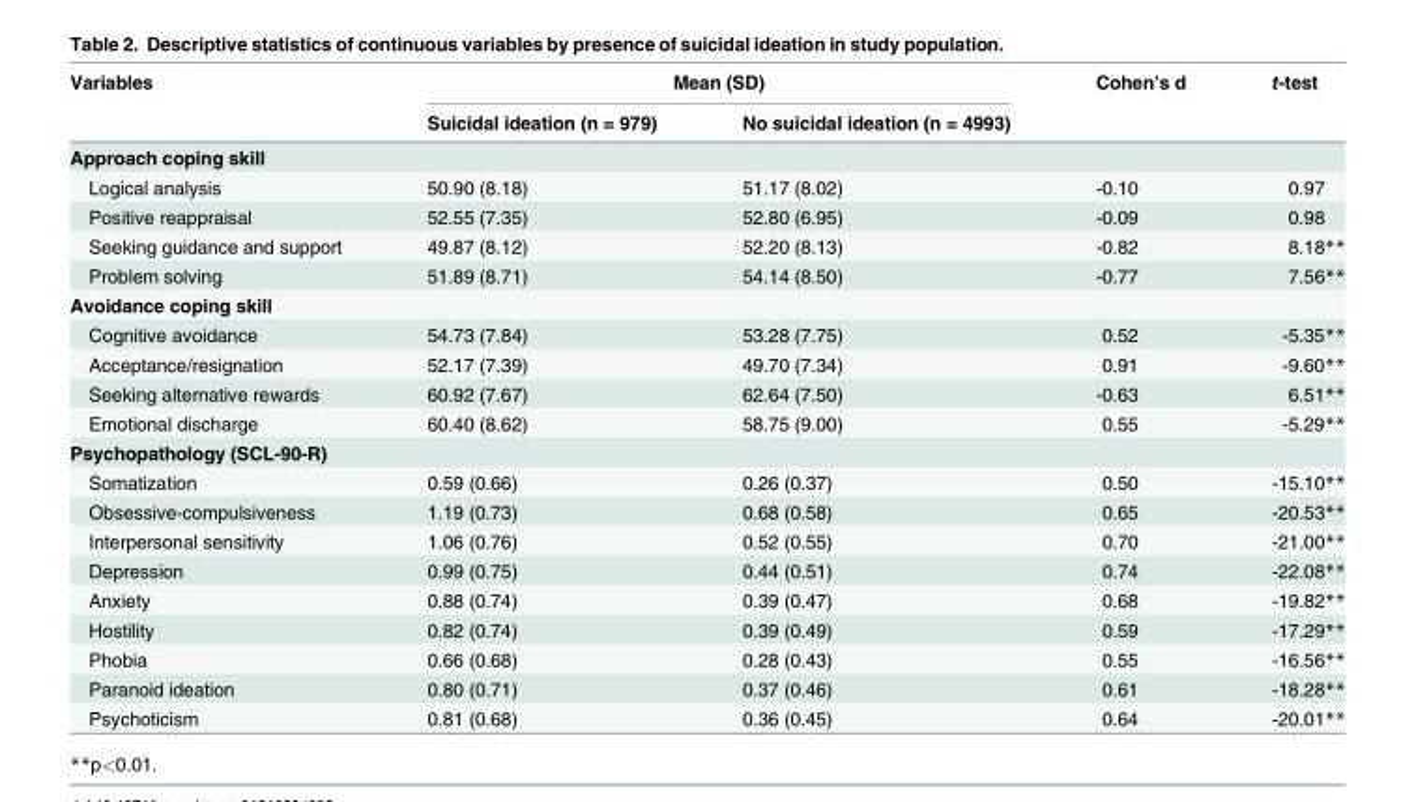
<table><thead><tr><td rowspan="2">Variables</td><td colspan="2">Mean (SD)</td><td rowspan="2">Cohen’s d</td><td rowspan="2">t-test</td></tr><tr><td>Suicidal ideation (n = 979)</td><td>No suicidal ideation (n = 4993)</td></tr></thead><tbody><tr><td colspan="5">Approach coping skill</td></tr><tr><td>Logical analysis</td><td>50.90 (8.18)</td><td>51.17 (8.02)</td><td>-0.10</td><td>0.97</td></tr><tr><td>Positive reappraisal</td><td>52.55 (7.35)</td><td>52.80 (6.95)</td><td>-0.09</td><td>0.98</td></tr><tr><td>Seeking guidance and support</td><td>49.87 (8.12)</td><td>52.20 (8.13)</td><td>-0.82</td><td>8.18**</td></tr><tr><td>Problem solving</td><td>51.89 (8.71)</td><td>54.14 (8.50)</td><td>-0.77</td><td>7.56**</td></tr><tr><td colspan="5">Avoidance coping skill</td></tr><tr><td>Cognitive avoidance</td><td>54.73 (7.84)</td><td>53.28 (7.75)</td><td>0.52</td><td>-5.35**</td></tr><tr><td>Acceptance/resignation</td><td>52.17 (7.39)</td><td>49.70 (7.34)</td><td>0.91</td><td>-9.60**</td></tr><tr><td>Seeking alternative rewards</td><td>60.92 (7.67)</td><td>62.64 (7.50)</td><td>-0.63</td><td>6.51**</td></tr><tr><td>Emotional discharge</td><td>60.40 (8.62)</td><td>58.75 (9.00)</td><td>0.55</td><td>-5.29**</td></tr><tr><td colspan="5">Psychopathology (SCL-90-R)</td></tr><tr><td>Somatization</td><td>0.59 (0.66)</td><td>0.26 (0.37)</td><td>0.50</td><td>-15.10**</td></tr><tr><td>Obsessive-compulsiveness</td><td>1.19 (0.73)</td><td>0.68 (0.58)</td><td>0.65</td><td>-20.53**</td></tr><tr><td>Interpersonal sensitivity</td><td>1.06 (0.76)</td><td>0.52 (0.55)</td><td>0.70</td><td>-21.00**</td></tr><tr><td>Depression</td><td>0.99 (0.75)</td><td>0.44 (0.51)</td><td>0.74</td><td>-22.08**</td></tr><tr><td>Anxiety</td><td>0.88 (0.74)</td><td>0.39 (0.47)</td><td>0.68</td><td>-19.82**</td></tr><tr><td>Hostility</td><td>0.82 (0.74)</td><td>0.39 (0.49)</td><td>0.59</td><td>-17.29**</td></tr><tr><td>Phobia</td><td>0.66 (0.68)</td><td>0.28 (0.43)</td><td>0.55</td><td>-16.56**</td></tr><tr><td>Paranoid ideation</td><td>0.80 (0.71)</td><td>0.37 (0.46)</td><td>0.61</td><td>-18.28**</td></tr><tr><td>Psychoticism</td><td>0.81 (0.68)</td><td>0.36 (0.45)</td><td>0.64</td><td>-20.01**</td></tr></tbody></table>